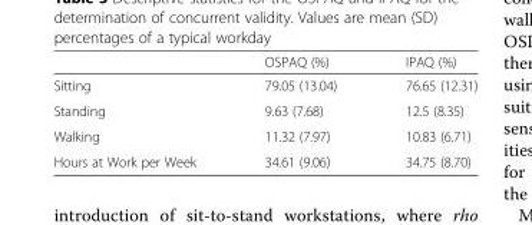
<table><thead><tr><td></td><td>OSPAQ (%)</td><td>IPAQ (%)</td></tr></thead><tbody><tr><td>Sitting</td><td>79.05 (13.04)</td><td>76.65 (12.31)</td></tr><tr><td>Standing</td><td>9.63 (7.68)</td><td>12.5 (8.35)</td></tr><tr><td>Walking</td><td>11.32 (7.97)</td><td>10.83 (6.71)</td></tr><tr><td>Hours at Work per Week</td><td>34.61 (9.06)</td><td>34.75 (8.70)</td></tr></tbody></table>